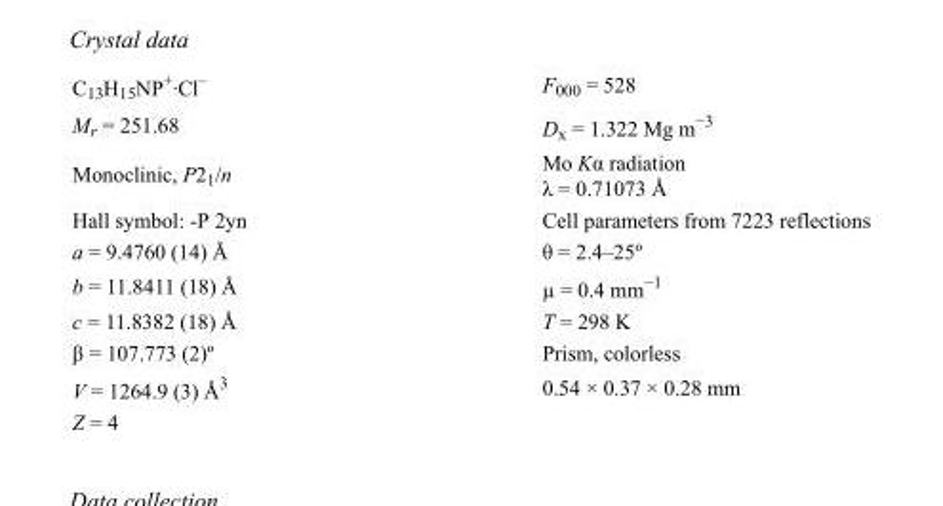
<table><tbody><tr><td>C<sub>13</sub>H<sub>15</sub>NP<sup>+</sup>·Cl<sup>–</sup></td><td>F000 = 528</td></tr><tr><td>M<sub>r</sub> = 251.68</td><td>D<sub>x</sub> = 1.322 Mg m<sup>−3</sup></td></tr><tr><td>Monoclinic, P2<sub>1</sub>/n</td><td>Mo Kα radiation λ = 0.71073 Å</td></tr><tr><td>Hall symbol: -P 2yn</td><td>Cell parameters from 7223 reflections</td></tr><tr><td>a = 9.4760 (14) Å</td><td>θ = 2.4–25º</td></tr><tr><td>b = 11.8411 (18) Å</td><td>µ = 0.4 mm<sup>−1</sup></td></tr><tr><td>c = 11.8382 (18) Å</td><td>T = 298 K</td></tr><tr><td>β = 107.773 (2)º</td><td>Prism, colorless</td></tr><tr><td>V = 1264.9 (3) Å<sup>3</sup></td><td>0.54 × 0.37 × 0.28 mm</td></tr><tr><td>Z = 4</td><td></td></tr></tbody></table>